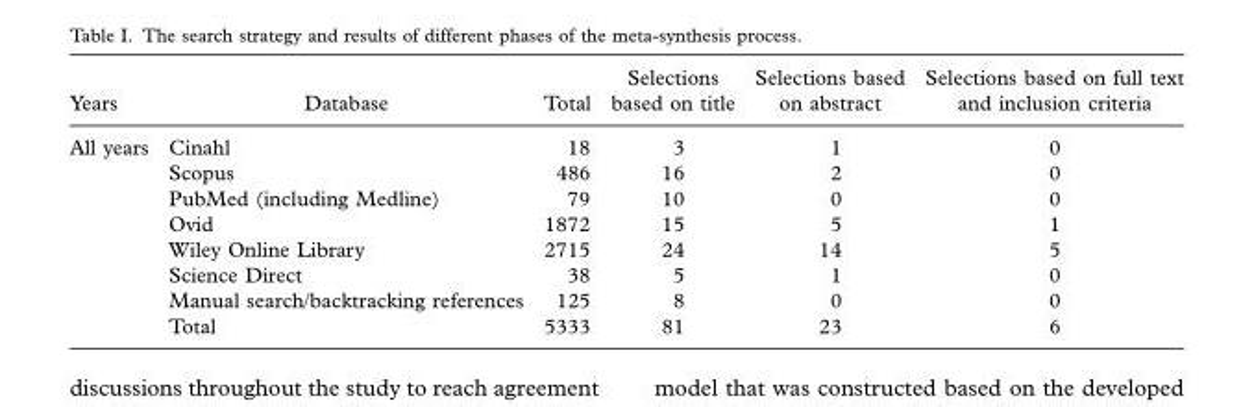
<table><thead><tr><td>Years</td><td>Database</td><td>Total</td><td>Selections based on title</td><td>Selections based on abstract</td><td>Selections based on full text and inclusion criteria</td></tr></thead><tbody><tr><td rowspan="8">All years</td><td>Cinahl</td><td>18</td><td>3</td><td>1</td><td>0</td></tr><tr><td>Scopus</td><td>486</td><td>16</td><td>2</td><td>0</td></tr><tr><td>PubMed (including Medline)</td><td>79</td><td>10</td><td>0</td><td>0</td></tr><tr><td>Ovid</td><td>1872</td><td>15</td><td>5</td><td>1</td></tr><tr><td>Wiley Online Library</td><td>2715</td><td>24</td><td>14</td><td>5</td></tr><tr><td>Science Direct</td><td>38</td><td>5</td><td>1</td><td>0</td></tr><tr><td>Manual search/backtracking references</td><td>125</td><td>8</td><td>0</td><td>0</td></tr><tr><td>Total</td><td>5333</td><td>81</td><td>23</td><td>6</td></tr></tbody></table>